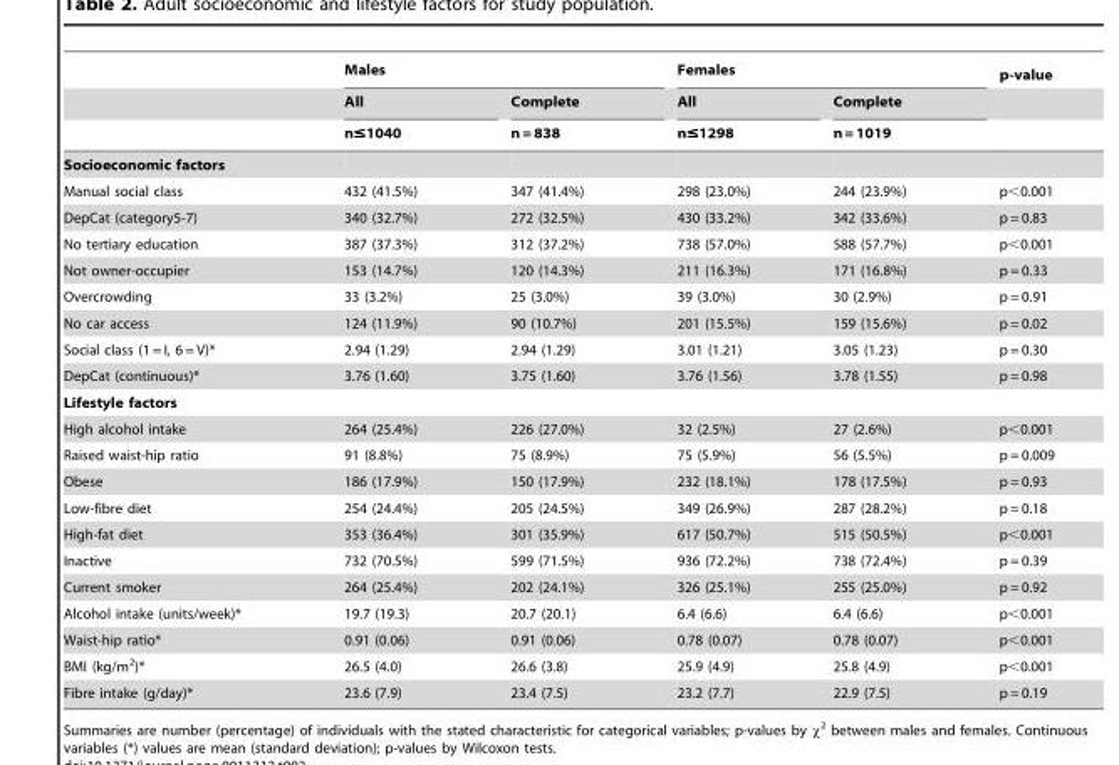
<table><thead><tr><td rowspan="3"></td><td colspan="2">Males</td><td colspan="2">Females</td><td rowspan="3">p-value</td></tr><tr><td rowspan="2">All n≤1040</td><td rowspan="2">Complete n = 838</td><td rowspan="2">All n≤1298</td><td rowspan="2">Complete n = 1019</td></tr><tr></tr></thead><tbody><tr><td colspan="6">Socioeconomic factors</td></tr><tr><td>Manual social class</td><td>432 (41.5%)</td><td>347 (41.4%)</td><td>298 (23.0%)</td><td>244 (23.9%)</td><td>p&lt;0.001</td></tr><tr><td>DepCat (category5-7)</td><td>340 (32.7%)</td><td>272 (32.5%)</td><td>430 (33.2%)</td><td>342 (33.6%)</td><td>p = 0.83</td></tr><tr><td>No tertiary education</td><td>387 (37.3%)</td><td>312 (37.2%)</td><td>738 (57.0%)</td><td>588 (57.7%)</td><td>p&lt;0.001</td></tr><tr><td>Not owner-occupier</td><td>153 (14.7%)</td><td>120 (14.3%)</td><td>211 (16.3%)</td><td>171 (16.8%)</td><td>p = 0.33</td></tr><tr><td>Overcrowding</td><td>33 (3.2%)</td><td>25 (3.0%)</td><td>39 (3.0%)</td><td>30 (2.9%)</td><td>p = 0.91</td></tr><tr><td>No car access</td><td>124 (11.9%)</td><td>90 (10.7%)</td><td>201 (15.5%)</td><td>159 (15.6%)</td><td>p = 0.02</td></tr><tr><td>Social class (1 = I, 6 = V)*</td><td>2.94 (1.29)</td><td>2.94 (1.29)</td><td>3.01 (1.21)</td><td>3.05 (1.23)</td><td>p = 0.30</td></tr><tr><td>DepCat (continuous)*</td><td>3.76 (1.60)</td><td>3.75 (1.60)</td><td>3.76 (1.56)</td><td>3.78 (1.55)</td><td>p = 0.98</td></tr><tr><td colspan="6">Lifestyle factors</td></tr><tr><td>High alcohol intake</td><td>264 (25.4%)</td><td>226 (27.0%)</td><td>32 (2.5%)</td><td>27 (2.6%)</td><td>p&lt;0.001</td></tr><tr><td>Raised waist-hip ratio</td><td>91 (8.8%)</td><td>75 (8.9%)</td><td>75 (5.9%)</td><td>56 (5.5%)</td><td>p = 0.009</td></tr><tr><td>Obese</td><td>186 (17.9%)</td><td>150 (17.9%)</td><td>232 (18.1%)</td><td>178 (17.5%)</td><td>p = 0.93</td></tr><tr><td>Low-fibre diet</td><td>254 (24.4%)</td><td>205 (24.5%)</td><td>349 (26.9%)</td><td>287 (28.2%)</td><td>p = 0.18</td></tr><tr><td>High-fat diet</td><td>353 (36.4%)</td><td>301 (35.9%)</td><td>617 (50.7%)</td><td>515 (50.5%)</td><td>p&lt;0.001</td></tr><tr><td>Inactive</td><td>732 (70.5%)</td><td>599 (71.5%)</td><td>936 (72.2%)</td><td>738 (72.4%)</td><td>p = 0.39</td></tr><tr><td>Current smoker</td><td>264 (25.4%)</td><td>202 (24.1%)</td><td>326 (25.1%)</td><td>255 (25.0%)</td><td>p = 0.92</td></tr><tr><td>Alcohol intake (units/week)*</td><td>19.7 (19.3)</td><td>20.7 (20.1)</td><td>6.4 (6.6)</td><td>6.4 (6.6)</td><td>p&lt;0.001</td></tr><tr><td>Waist-hip ratio*</td><td>0.91 (0.06)</td><td>0.91 (0.06)</td><td>0.78 (0.07)</td><td>0.78 (0.07)</td><td>p&lt;0.001</td></tr><tr><td>BMI (kg/m<sup>2</sup>)*</td><td>26.5 (4.0)</td><td>26.6 (3.8)</td><td>25.9 (4.9)</td><td>25.8 (4.9)</td><td>p&lt;0.001</td></tr><tr><td>Fibre intake (g/day)*</td><td>23.6 (7.9)</td><td>23.4 (7.5)</td><td>23.2 (7.7)</td><td>22.9 (7.5)</td><td>p = 0.19</td></tr></tbody></table>